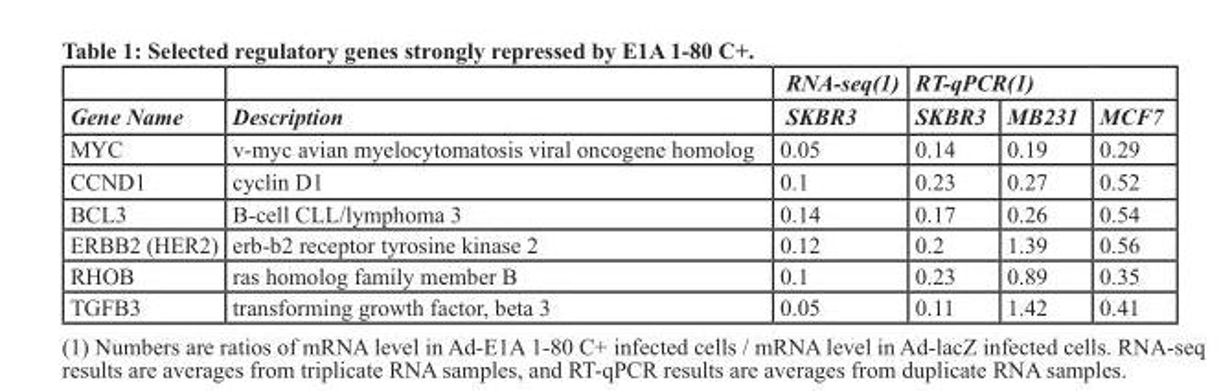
<table><thead><tr><td rowspan="2">Gene Name</td><td rowspan="2">Description</td><td rowspan="2">RNA-seq(1) SKBR3</td><td colspan="3">RT-qPCR(1)</td></tr><tr><td>SKBR3</td><td>MB231</td><td>MCF7</td></tr></thead><tbody><tr><td>MYC</td><td>v-myc avian myelocytomatosis viral oncogene homolog</td><td>0.05</td><td>0.14</td><td>0.19</td><td>0.29</td></tr><tr><td>CCND1</td><td>cyclin D1</td><td>0.1</td><td>0.23</td><td>0.27</td><td>0.52</td></tr><tr><td>BCL3</td><td>B-cell CLL/lymphoma 3</td><td>0.14</td><td>0.17</td><td>0.26</td><td>0.54</td></tr><tr><td>ERBB2 (HER2)</td><td>erb-b2 receptor tyrosine kinase 2</td><td>0.12</td><td>0.2</td><td>1.39</td><td>0.56</td></tr><tr><td>RHOB</td><td>ras homolog family member B</td><td>0.1</td><td>0.23</td><td>0.89</td><td>0.35</td></tr><tr><td>TGFB3</td><td>transforming growth factor, beta 3</td><td>0.05</td><td>0.11</td><td>1.42</td><td>0.41</td></tr></tbody></table>